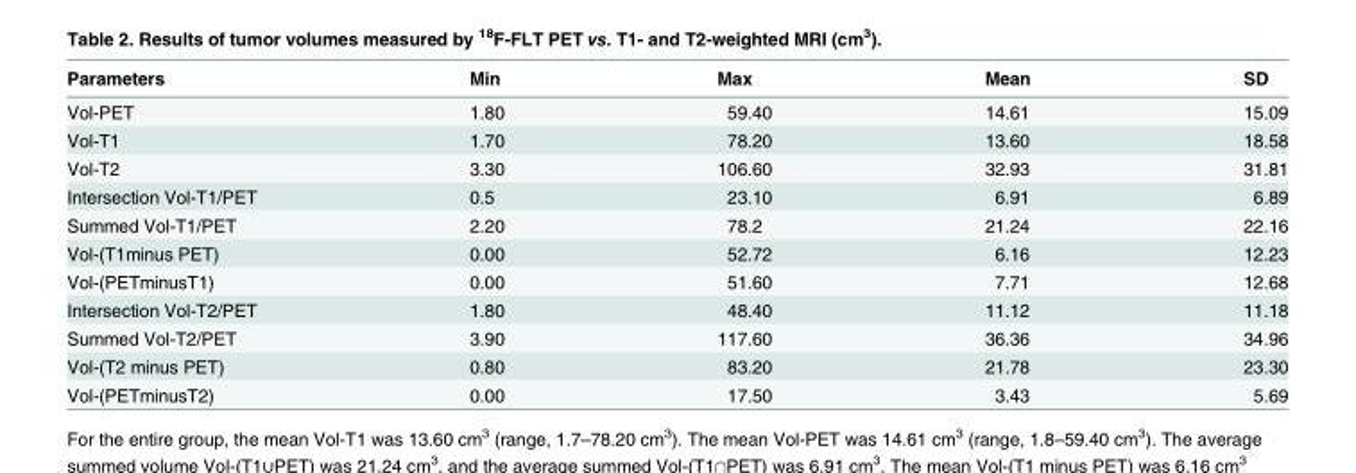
<table><thead><tr><td>Parameters</td><td>Min</td><td>Max</td><td>Mean</td><td>SD</td></tr></thead><tbody><tr><td>Vol-PET</td><td>1.80</td><td>59.40</td><td>14.61</td><td>15.09</td></tr><tr><td>Vol-T1</td><td>1.70</td><td>78.20</td><td>13.60</td><td>18.58</td></tr><tr><td>Vol-T2</td><td>3.30</td><td>106.60</td><td>32.93</td><td>31.81</td></tr><tr><td>Intersection Vol-T1/PET</td><td>0.5</td><td>23.10</td><td>6.91</td><td>6.89</td></tr><tr><td>Summed Vol-T1/PET</td><td>2.20</td><td>78.2</td><td>21.24</td><td>22.16</td></tr><tr><td>Vol-(T1minus PET)</td><td>0.00</td><td>52.72</td><td>6.16</td><td>12.23</td></tr><tr><td>Vol-(PETminusT1)</td><td>0.00</td><td>51.60</td><td>7.71</td><td>12.68</td></tr><tr><td>Intersection Vol-T2/PET</td><td>1.80</td><td>48.40</td><td>11.12</td><td>11.18</td></tr><tr><td>Summed Vol-T2/PET</td><td>3.90</td><td>117.60</td><td>36.36</td><td>34.96</td></tr><tr><td>Vol-(T2 minus PET)</td><td>0.80</td><td>83.20</td><td>21.78</td><td>23.30</td></tr><tr><td>Vol-(PETminusT2)</td><td>0.00</td><td>17.50</td><td>3.43</td><td>5.69</td></tr></tbody></table>